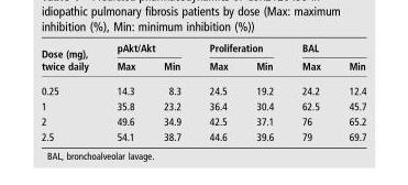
<table><thead><tr><td rowspan="2">Dose (mg), twice daily</td><td colspan="2">pAkt/Akt</td><td colspan="2">Proliferation</td><td colspan="2">BAL</td></tr><tr><td>Max</td><td>Min</td><td>Max</td><td>Min</td><td>Max</td><td>Min</td></tr></thead><tbody><tr><td>0.25</td><td>14.3</td><td>8.3</td><td>24.5</td><td>19.2</td><td>24.2</td><td>12.4</td></tr><tr><td>1</td><td>35.8</td><td>23.2</td><td>36.4</td><td>30.4</td><td>62.5</td><td>45.7</td></tr><tr><td>2</td><td>49.6</td><td>34.9</td><td>42.5</td><td>37.1</td><td>76</td><td>65.2</td></tr><tr><td>2.5</td><td>54.1</td><td>38.7</td><td>44.6</td><td>39.6</td><td>79</td><td>69.7</td></tr></tbody></table>